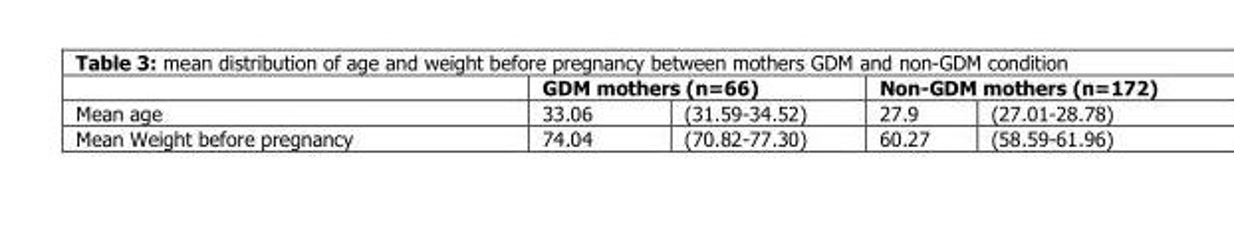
<table><thead><tr><td rowspan="2">Mean age</td><td colspan="2">GDM mothers (n=66)</td><td colspan="2">Non-GDM mothers (n=172)</td></tr><tr><td>33.06</td><td>(31.59-34.52)</td><td>27.9</td><td>(27.01-28.78)</td></tr></thead><tbody><tr><td>Mean Weight before pregnancy</td><td>74.04</td><td>(70.82-77.30)</td><td>60.27</td><td>(58.59-61.96)</td></tr></tbody></table>